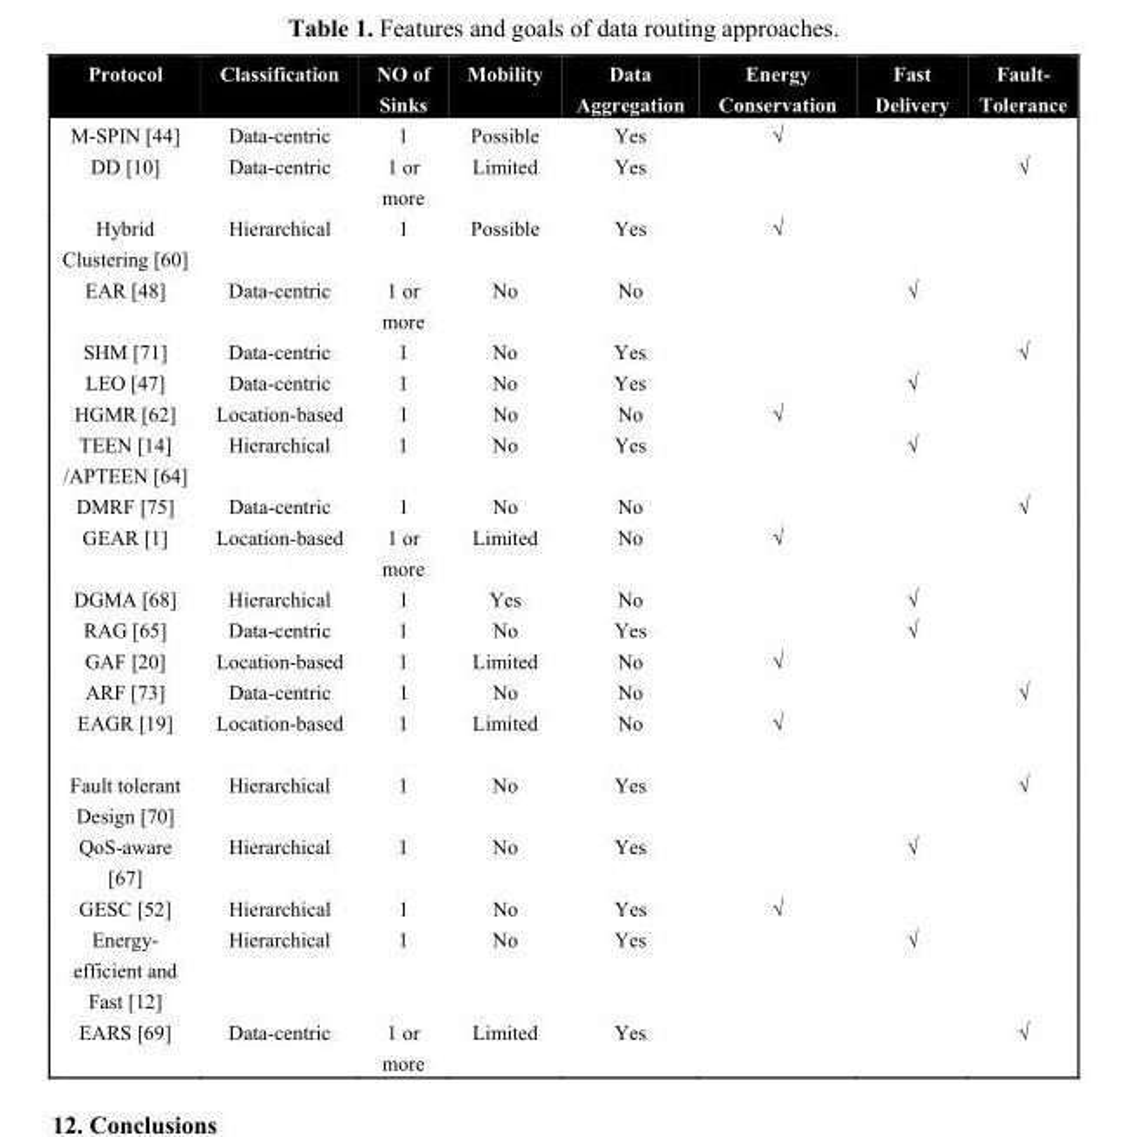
<table><thead><tr><td>Protocol</td><td>Classification</td><td>NO of Sinks</td><td>Mobility</td><td>Data Aggregation</td><td>Energy Conservation</td><td>Fast Delivery</td><td>Fault- Tolerance</td></tr></thead><tbody><tr><td>M-SPIN [44]</td><td>Data-centric</td><td>1</td><td>Possible</td><td>Yes</td><td>√</td><td></td><td></td></tr><tr><td>DD [10]</td><td>Data-centric</td><td>1 or more</td><td>Limited</td><td>Yes</td><td></td><td></td><td>√</td></tr><tr><td>Hybrid Clustering [60]</td><td>Hierarchical</td><td>1</td><td>Possible</td><td>Yes</td><td>√</td><td></td><td></td></tr><tr><td>EAR [48]</td><td>Data-centric</td><td>1 or more</td><td>No</td><td>No</td><td></td><td>√</td><td></td></tr><tr><td>SHM [71]</td><td>Data-centric</td><td>1</td><td>No</td><td>Yes</td><td></td><td></td><td>√</td></tr><tr><td>LEO [47]</td><td>Data-centric</td><td>1</td><td>No</td><td>Yes</td><td></td><td>√</td><td></td></tr><tr><td>HGMR [62]</td><td>Location-based</td><td>1</td><td>No</td><td>No</td><td>√</td><td></td><td></td></tr><tr><td>TEEN [14] /APTEEN [64]</td><td>Hierarchical</td><td>1</td><td>No</td><td>Yes</td><td></td><td>√</td><td></td></tr><tr><td>DMRF [75]</td><td>Data-centric</td><td>1</td><td>No</td><td>No</td><td></td><td></td><td>√</td></tr><tr><td>GEAR [1]</td><td>Location-based</td><td>1 or more</td><td>Limited</td><td>No</td><td>√</td><td></td><td></td></tr><tr><td>DGMA [68]</td><td>Hierarchical</td><td>1</td><td>Yes</td><td>No</td><td></td><td>√</td><td></td></tr><tr><td>RAG [65]</td><td>Data-centric</td><td>1</td><td>No</td><td>Yes</td><td></td><td>√</td><td></td></tr><tr><td>GAF [20]</td><td>Location-based</td><td>1</td><td>Limited</td><td>No</td><td>√</td><td></td><td></td></tr><tr><td>ARF [73]</td><td>Data-centric</td><td>1</td><td>No</td><td>No</td><td></td><td></td><td>√</td></tr><tr><td>EAGR [19]</td><td>Location-based</td><td>1</td><td>Limited</td><td>No</td><td>√</td><td></td><td></td></tr><tr><td>Fault tolerant Design [70]</td><td>Hierarchical</td><td>1</td><td>No</td><td>Yes</td><td></td><td></td><td>√</td></tr><tr><td>QoS-aware [67]</td><td>Hierarchical</td><td>1</td><td>No</td><td>Yes</td><td></td><td>√</td><td></td></tr><tr><td>GESC [52]</td><td>Hierarchical</td><td>1</td><td>No</td><td>Yes</td><td>√</td><td></td><td></td></tr><tr><td>Energy- efficient and Fast [12]</td><td>Hierarchical</td><td>1</td><td>No</td><td>Yes</td><td></td><td>√</td><td></td></tr><tr><td>EARS [69]</td><td>Data-centric</td><td>1 or more</td><td>Limited</td><td>Yes</td><td></td><td></td><td>√</td></tr></tbody></table>